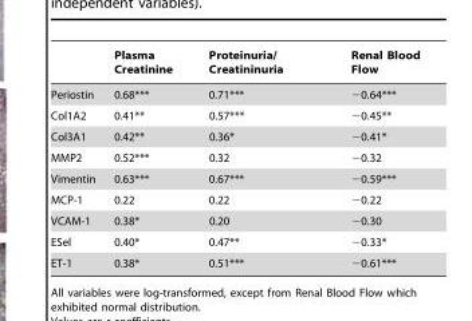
<table><thead><tr><td></td><td>Plasma Creatinine</td><td>Proteinuria/ Creatininuria</td><td>Renal Blood Flow</td></tr></thead><tbody><tr><td>Periostin</td><td>0.68***</td><td>0.71***</td><td>−0.64***</td></tr><tr><td>Col1A2</td><td>0.41**</td><td>0.57***</td><td>−0.45**</td></tr><tr><td>Col3A1</td><td>0.42**</td><td>0.36*</td><td>−0.41*</td></tr><tr><td>MMP2</td><td>0.52***</td><td>0.32</td><td>−0.32</td></tr><tr><td>Vimentin</td><td>0.63***</td><td>0.67***</td><td>−0.59***</td></tr><tr><td>MCP-1</td><td>0.22</td><td>0.22</td><td>−0.22</td></tr><tr><td>VCAM-1</td><td>0.38*</td><td>0.20</td><td>−0.30</td></tr><tr><td>ESel</td><td>0.40*</td><td>0.47**</td><td>−0.33*</td></tr><tr><td>ET-1</td><td>0.38*</td><td>0.51***</td><td>−0.61***</td></tr></tbody></table>